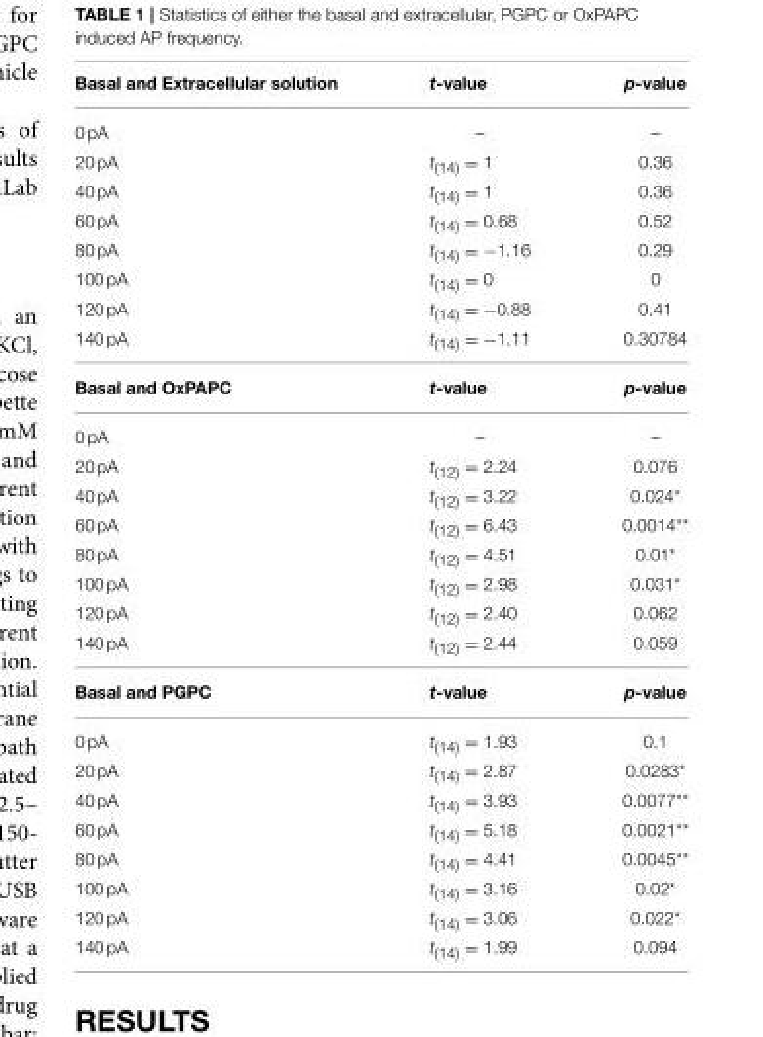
<table><thead><tr><td>Basal and Extracellular solution</td><td>t-value</td><td>p-value</td></tr></thead><tbody><tr><td>0 pA</td><td>–</td><td>–</td></tr><tr><td>20 pA</td><td>t<sub>(14)</sub> = 1</td><td>0.36</td></tr><tr><td>40 pA</td><td>t<sub>(14)</sub> = 1</td><td>0.36</td></tr><tr><td>60 pA</td><td>t<sub>(14)</sub> = 0.68</td><td>0.52</td></tr><tr><td>80 pA</td><td>t<sub>(14)</sub> = −1.16</td><td>0.29</td></tr><tr><td>100 pA</td><td>t<sub>(14)</sub> = 0</td><td>0</td></tr><tr><td>120 pA</td><td>t<sub>(14)</sub> = −0.88</td><td>0.41</td></tr><tr><td>140 pA</td><td>t<sub>(14)</sub> = −1.11</td><td>0.30784</td></tr><tr><td>Basal and OxPAPC</td><td>t-value</td><td>p-value</td></tr><tr><td>0 pA</td><td>–</td><td>–</td></tr><tr><td>20 pA</td><td>t<sub>(12)</sub> = 2.24</td><td>0.076</td></tr><tr><td>40 pA</td><td>t<sub>(12)</sub> = 3.22</td><td>0.024*</td></tr><tr><td>60 pA</td><td>t<sub>(12)</sub> = 6.43</td><td>0.0014**</td></tr><tr><td>80 pA</td><td>t<sub>(12)</sub> = 4.51</td><td>0.01*</td></tr><tr><td>100 pA</td><td>t<sub>(12)</sub> = 2.98</td><td>0.031*</td></tr><tr><td>120 pA</td><td>t<sub>(12)</sub> = 2.40</td><td>0.062</td></tr><tr><td>140 pA</td><td>t<sub>(12)</sub> = 2.44</td><td>0.059</td></tr><tr><td>Basal and PGPC</td><td>t-value</td><td>p-value</td></tr><tr><td>0 pA</td><td>t<sub>(14)</sub> = 1.93</td><td>0.1</td></tr><tr><td>20 pA</td><td>t<sub>(14)</sub> = 2.87</td><td>0.0283*</td></tr><tr><td>40 pA</td><td>t<sub>(14)</sub> = 3.93</td><td>0.0077**</td></tr><tr><td>60 pA</td><td>t<sub>(14)</sub> = 5.18</td><td>0.0021**</td></tr><tr><td>80 pA</td><td>t<sub>(14)</sub> = 4.41</td><td>0.0045**</td></tr><tr><td>100 pA</td><td>t<sub>(14)</sub> = 3.16</td><td>0.02*</td></tr><tr><td>120 pA</td><td>t<sub>(14)</sub> = 3.06</td><td>0.022*</td></tr><tr><td>140 pA</td><td>t<sub>(14)</sub> = 1.99</td><td>0.094</td></tr></tbody></table>